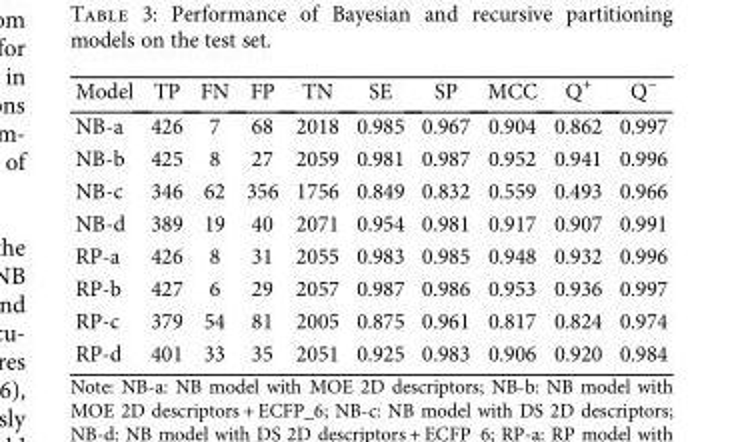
<table><thead><tr><td>Model</td><td>TP</td><td>FN</td><td>FP</td><td>TN</td><td>SE</td><td>SP</td><td>MCC</td><td>Q<sup>+</sup></td><td>Q<sup>−</sup></td></tr></thead><tbody><tr><td>NB-a</td><td>426</td><td>7</td><td>68</td><td>2018</td><td>0.985</td><td>0.967</td><td>0.904</td><td>0.862</td><td>0.997</td></tr><tr><td>NB-b</td><td>425</td><td>8</td><td>27</td><td>2059</td><td>0.981</td><td>0.987</td><td>0.952</td><td>0.941</td><td>0.996</td></tr><tr><td>NB-c</td><td>346</td><td>62</td><td>356</td><td>1756</td><td>0.849</td><td>0.832</td><td>0.559</td><td>0.493</td><td>0.966</td></tr><tr><td>NB-d</td><td>389</td><td>19</td><td>40</td><td>2071</td><td>0.954</td><td>0.981</td><td>0.917</td><td>0.907</td><td>0.991</td></tr><tr><td>RP-a</td><td>426</td><td>8</td><td>31</td><td>2055</td><td>0.983</td><td>0.985</td><td>0.948</td><td>0.932</td><td>0.996</td></tr><tr><td>RP-b</td><td>427</td><td>6</td><td>29</td><td>2057</td><td>0.987</td><td>0.986</td><td>0.953</td><td>0.936</td><td>0.997</td></tr><tr><td>RP-c</td><td>379</td><td>54</td><td>81</td><td>2005</td><td>0.875</td><td>0.961</td><td>0.817</td><td>0.824</td><td>0.974</td></tr><tr><td>RP-d</td><td>401</td><td>33</td><td>35</td><td>2051</td><td>0.925</td><td>0.983</td><td>0.906</td><td>0.920</td><td>0.984</td></tr></tbody></table>